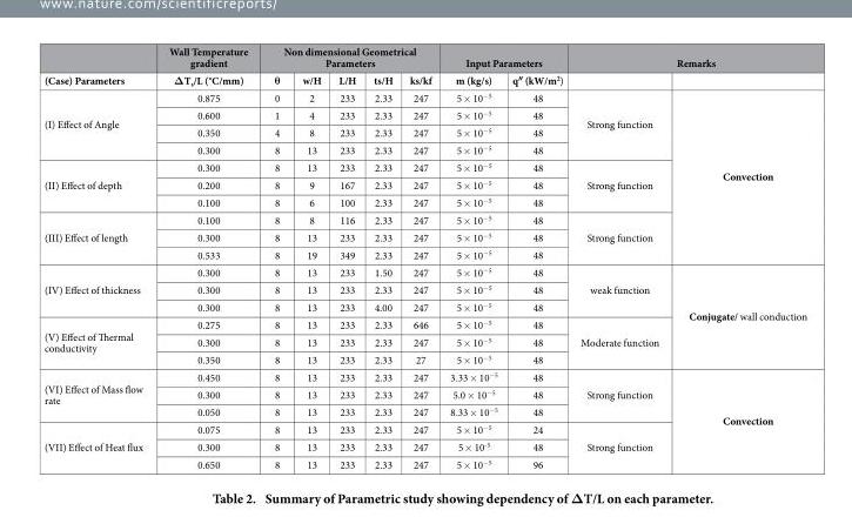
<table><thead><tr><td rowspan="2">(Case) Parameters</td><td rowspan="2">Wall Temperature gradient ΔT<sub>s</sub>/L (°C/mm)</td><td colspan="5">Non dimensional Geometrical Parameters</td><td colspan="2">Input Parameters</td><td colspan="2">Remarks</td></tr><tr><td>θ</td><td>w/H</td><td>L/H</td><td>ts/H</td><td>ks/kf</td><td>m (kg/s)</td><td>q″ (kW/m<sup>2</sup>)</td><td></td><td></td></tr></thead><tbody><tr><td rowspan="4">(I) Effect of Angle</td><td>0.875</td><td>0</td><td>2</td><td>233</td><td>2.33</td><td>247</td><td>5 × 10<sup>−5</sup></td><td>48</td><td rowspan="4">Strong function</td><td rowspan="10">Convection</td></tr><tr><td>0.600</td><td>1</td><td>4</td><td>233</td><td>2.33</td><td>247</td><td>5 × 10<sup>−5</sup></td><td>48</td></tr><tr><td>0.350</td><td>4</td><td>8</td><td>233</td><td>2.33</td><td>247</td><td>5 × 10<sup>−5</sup></td><td>48</td></tr><tr><td>0.300</td><td>8</td><td>13</td><td>233</td><td>2.33</td><td>247</td><td>5 × 10<sup>−5</sup></td><td>48</td></tr><tr><td rowspan="3">(II) Effect of depth</td><td>0.300</td><td>8</td><td>13</td><td>233</td><td>2.33</td><td>247</td><td>5 × 10<sup>−5</sup></td><td>48</td><td rowspan="3">Strong function</td></tr><tr><td>0.200</td><td>8</td><td>9</td><td>167</td><td>2.33</td><td>247</td><td>5 × 10<sup>−5</sup></td><td>48</td></tr><tr><td>0.100</td><td>8</td><td>6</td><td>100</td><td>2.33</td><td>247</td><td>5 × 10<sup>−5</sup></td><td>48</td></tr><tr><td rowspan="3">(III) Effect of length</td><td>0.100</td><td>8</td><td>8</td><td>116</td><td>2.33</td><td>247</td><td>5 × 10<sup>−5</sup></td><td>48</td><td rowspan="3">Strong function</td></tr><tr><td>0.300</td><td>8</td><td>13</td><td>233</td><td>2.33</td><td>247</td><td>5 × 10<sup>−5</sup></td><td>48</td></tr><tr><td>0.533</td><td>8</td><td>19</td><td>349</td><td>2.33</td><td>247</td><td>5 × 10<sup>−5</sup></td><td>48</td></tr><tr><td rowspan="3">(IV) Effect of thickness</td><td>0.300</td><td>8</td><td>13</td><td>233</td><td>1.50</td><td>247</td><td>5 × 10<sup>−5</sup></td><td>48</td><td rowspan="3">weak function</td><td rowspan="6">Conjugate/ wall conduction</td></tr><tr><td>0.300</td><td>8</td><td>13</td><td>233</td><td>2.33</td><td>247</td><td>5 × 10<sup>−5</sup></td><td>48</td></tr><tr><td>0.300</td><td>8</td><td>13</td><td>233</td><td>4.00</td><td>247</td><td>5 × 10<sup>−5</sup></td><td>48</td></tr><tr><td rowspan="3">(V) Effect of Thermal conductivity</td><td>0.275</td><td>8</td><td>13</td><td>233</td><td>2.33</td><td>646</td><td>5 × 10<sup>−5</sup></td><td>48</td><td rowspan="3">Moderate function</td></tr><tr><td>0.300</td><td>8</td><td>13</td><td>233</td><td>2.33</td><td>247</td><td>5 × 10<sup>−5</sup></td><td>48</td></tr><tr><td>0.350</td><td>8</td><td>13</td><td>233</td><td>2.33</td><td>27</td><td>5 × 10<sup>−5</sup></td><td>48</td></tr><tr><td rowspan="3">(VI) Effect of Mass flow rate</td><td>0.450</td><td>8</td><td>13</td><td>233</td><td>2.33</td><td>247</td><td>3.33 × 10<sup>−5</sup></td><td>48</td><td rowspan="3">Strong function</td><td rowspan="6">Convection</td></tr><tr><td>0.300</td><td>8</td><td>13</td><td>233</td><td>2.33</td><td>247</td><td>5.0 × 10<sup>−5</sup></td><td>48</td></tr><tr><td>0.050</td><td>8</td><td>13</td><td>233</td><td>2.33</td><td>247</td><td>8.33 × 10<sup>−5</sup></td><td>48</td></tr><tr><td rowspan="3">(VII) Effect of Heat flux</td><td>0.075</td><td>8</td><td>13</td><td>233</td><td>2.33</td><td>247</td><td>5 × 10<sup>−5</sup></td><td>24</td><td rowspan="3">Strong function</td></tr><tr><td>0.300</td><td>8</td><td>13</td><td>233</td><td>2.33</td><td>247</td><td>5 × 10<sup>-5</sup></td><td>48</td></tr><tr><td>0.650</td><td>8</td><td>13</td><td>233</td><td>2.33</td><td>247</td><td>5 × 10<sup>−5</sup></td><td>96</td></tr></tbody></table>